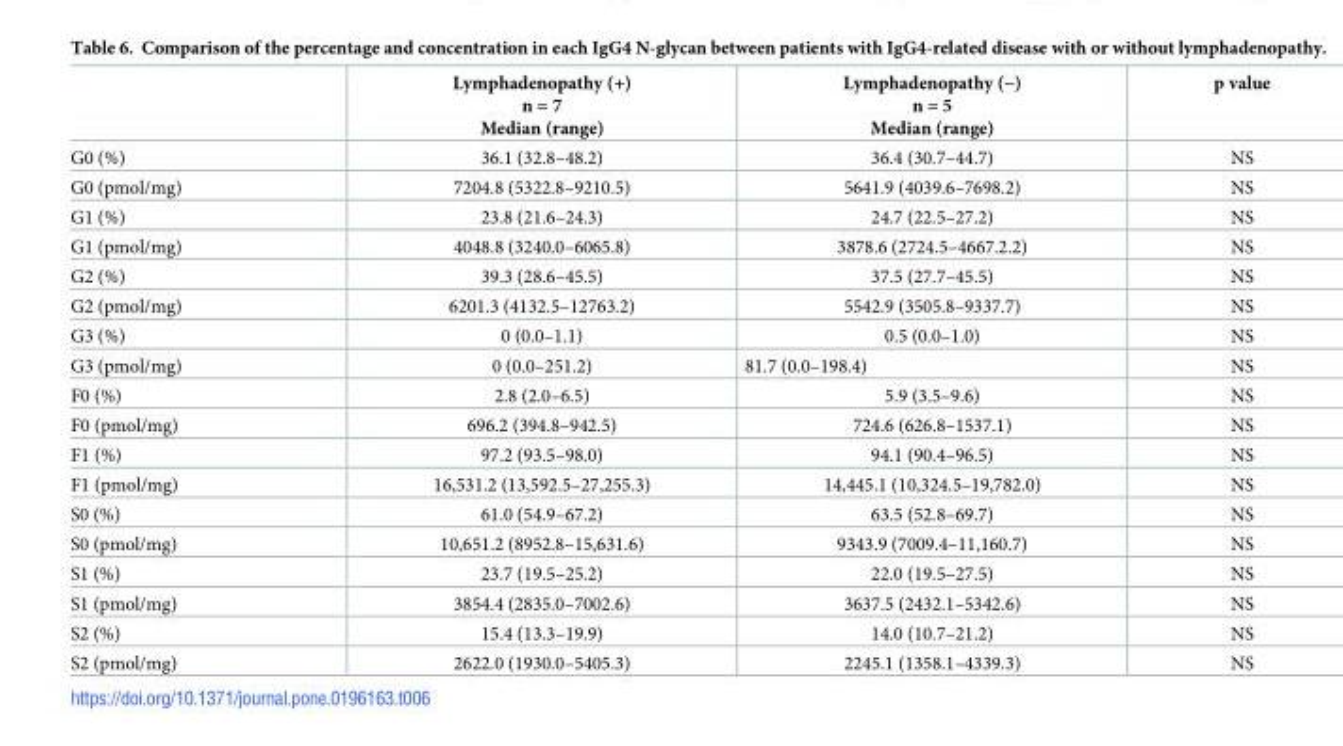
<table><thead><tr><td></td><td>Lymphadenopathy (+) n = 7 Median (range)</td><td>Lymphadenopathy (−) n = 5 Median (range)</td><td>p value</td></tr></thead><tbody><tr><td>G0 (%)</td><td>36.1 (32.8–48.2)</td><td>36.4 (30.7–44.7)</td><td>NS</td></tr><tr><td>G0 (pmol/mg)</td><td>7204.8 (5322.8–9210.5)</td><td>5641.9 (4039.6–7698.2)</td><td>NS</td></tr><tr><td>G1 (%)</td><td>23.8 (21.6–24.3)</td><td>24.7 (22.5–27.2)</td><td>NS</td></tr><tr><td>G1 (pmol/mg)</td><td>4048.8 (3240.0–6065.8)</td><td>3878.6 (2724.5–4667.2.2)</td><td>NS</td></tr><tr><td>G2 (%)</td><td>39.3 (28.6–45.5)</td><td>37.5 (27.7–45.5)</td><td>NS</td></tr><tr><td>G2 (pmol/mg)</td><td>6201.3 (4132.5–12763.2)</td><td>5542.9 (3505.8–9337.7)</td><td>NS</td></tr><tr><td>G3 (%)</td><td>0 (0.0–1.1)</td><td>0.5 (0.0–1.0)</td><td>NS</td></tr><tr><td>G3 (pmol/mg)</td><td>0 (0.0–251.2)</td><td>81.7 (0.0–198.4)</td><td>NS</td></tr><tr><td>F0 (%)</td><td>2.8 (2.0–6.5)</td><td>5.9 (3.5–9.6)</td><td>NS</td></tr><tr><td>F0 (pmol/mg)</td><td>696.2 (394.8–942.5)</td><td>724.6 (626.8–1537.1)</td><td>NS</td></tr><tr><td>F1 (%)</td><td>97.2 (93.5–98.0)</td><td>94.1 (90.4–96.5)</td><td>NS</td></tr><tr><td>F1 (pmol/mg)</td><td>16,531.2 (13,592.5–27,255.3)</td><td>14,445.1 (10,324.5–19,782.0)</td><td>NS</td></tr><tr><td>S0 (%)</td><td>61.0 (54.9–67.2)</td><td>63.5 (52.8–69.7)</td><td>NS</td></tr><tr><td>S0 (pmol/mg)</td><td>10,651.2 (8952.8–15,631.6)</td><td>9343.9 (7009.4–11,160.7)</td><td>NS</td></tr><tr><td>S1 (%)</td><td>23.7 (19.5–25.2)</td><td>22.0 (19.5–27.5)</td><td>NS</td></tr><tr><td>S1 (pmol/mg)</td><td>3854.4 (2835.0–7002.6)</td><td>3637.5 (2432.1–5342.6)</td><td>NS</td></tr><tr><td>S2 (%)</td><td>15.4 (13.3–19.9)</td><td>14.0 (10.7–21.2)</td><td>NS</td></tr><tr><td>S2 (pmol/mg)</td><td>2622.0 (1930.0–5405.3)</td><td>2245.1 (1358.1–4339.3)</td><td>NS</td></tr></tbody></table>